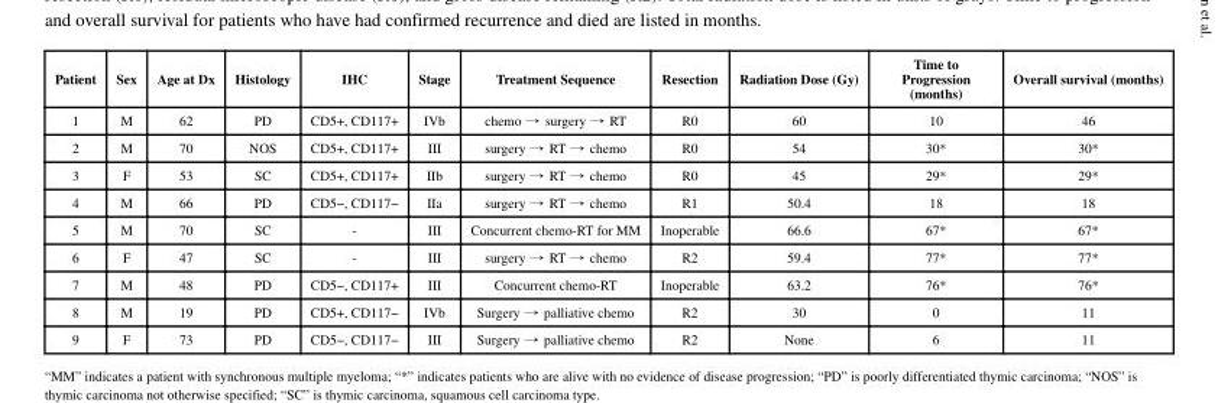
<table><thead><tr><td>Patient</td><td>Sex</td><td>Age at Dx</td><td>Histology</td><td>IHC</td><td>Stage</td><td>Treatment Sequence</td><td>Resection</td><td>Radiation Dose (Gy)</td><td>Time to Progression (months)</td><td>Overall survival (months)</td></tr></thead><tbody><tr><td>1</td><td>M</td><td>62</td><td>PD</td><td>CD5+, CD117+</td><td>IVb</td><td>chemo → surgery → RT</td><td>R0</td><td>60</td><td>10</td><td>46</td></tr><tr><td>2</td><td>M</td><td>70</td><td>NOS</td><td>CD5+, CD117+</td><td>III</td><td>surgery → RT → chemo</td><td>R0</td><td>54</td><td>30*</td><td>30*</td></tr><tr><td>3</td><td>F</td><td>53</td><td>SC</td><td>CD5+, CD117+</td><td>IIb</td><td>surgery → RT → chemo</td><td>R0</td><td>45</td><td>29*</td><td>29*</td></tr><tr><td>4</td><td>M</td><td>66</td><td>PD</td><td>CD5−, CD117−</td><td>IIa</td><td>surgery → RT → chemo</td><td>R1</td><td>50.4</td><td>18</td><td>18</td></tr><tr><td>5</td><td>M</td><td>70</td><td>SC</td><td>-</td><td>III</td><td>Concurrent chemo-RT for MM</td><td>Inoperable</td><td>66.6</td><td>67*</td><td>67*</td></tr><tr><td>6</td><td>F</td><td>47</td><td>SC</td><td>-</td><td>III</td><td>surgery → RT → chemo</td><td>R2</td><td>59.4</td><td>77*</td><td>77*</td></tr><tr><td>7</td><td>M</td><td>48</td><td>PD</td><td>CD5−, CD117+</td><td>III</td><td>Concurrent chemo-RT</td><td>Inoperable</td><td>63.2</td><td>76*</td><td>76*</td></tr><tr><td>8</td><td>M</td><td>19</td><td>PD</td><td>CD5+, CD117−</td><td>IVb</td><td>Surgery → palliative chemo</td><td>R2</td><td>30</td><td>0</td><td>11</td></tr><tr><td>9</td><td>F</td><td>73</td><td>PD</td><td>CD5−, CD117−</td><td>III</td><td>Surgery → palliative chemo</td><td>R2</td><td>None</td><td>6</td><td>11</td></tr></tbody></table>